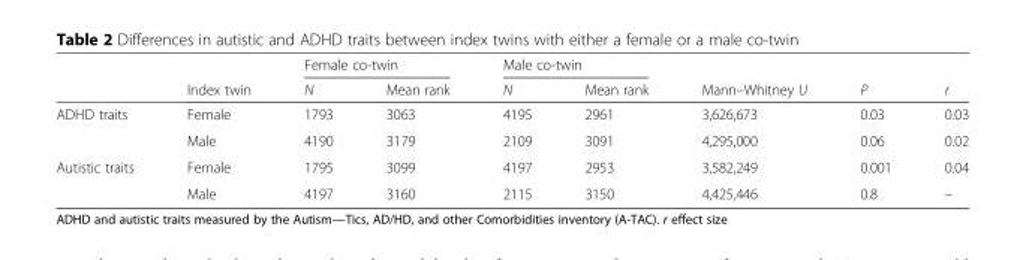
<table><thead><tr><td rowspan="2"></td><td rowspan="2">Index twin</td><td colspan="2">Female co-twin</td><td colspan="2">Male co-twin</td><td rowspan="2">Mann–Whitney U</td><td rowspan="2">P</td><td rowspan="2">r</td></tr><tr><td>N</td><td>Mean rank</td><td>N</td><td>Mean rank</td></tr></thead><tbody><tr><td rowspan="2">ADHD traits</td><td>Female</td><td>1793</td><td>3063</td><td>4195</td><td>2961</td><td>3,626,673</td><td>0.03</td><td>0.03</td></tr><tr><td>Male</td><td>4190</td><td>3179</td><td>2109</td><td>3091</td><td>4,295,000</td><td>0.06</td><td>0.02</td></tr><tr><td rowspan="2">Autistic traits</td><td>Female</td><td>1795</td><td>3099</td><td>4197</td><td>2953</td><td>3,582,249</td><td>0.001</td><td>0.04</td></tr><tr><td>Male</td><td>4197</td><td>3160</td><td>2115</td><td>3150</td><td>4,425,446</td><td>0.8</td><td>–</td></tr></tbody></table>